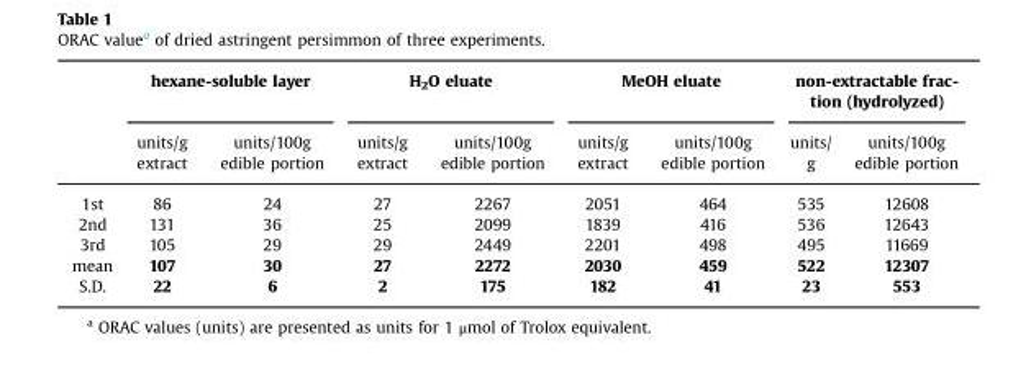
<table><thead><tr><td rowspan="2"></td><td colspan="2">hexane-soluble layer</td><td colspan="2">H<sub>2</sub>O eluate</td><td colspan="2">MeOH eluate</td><td colspan="2">non-extractable frac- tion (hydrolyzed)</td></tr><tr><td>units/g extract</td><td>units/100g edible portion</td><td>units/g extract</td><td>units/100g edible portion</td><td>units/g extract</td><td>units/100g edible portion</td><td>units/ g</td><td>units/100g edible portion</td></tr></thead><tbody><tr><td>1st</td><td>86</td><td>24</td><td>27</td><td>2267</td><td>2051</td><td>464</td><td>535</td><td>12608</td></tr><tr><td>2nd</td><td>131</td><td>36</td><td>25</td><td>2099</td><td>1839</td><td>416</td><td>536</td><td>12643</td></tr><tr><td>3rd</td><td>105</td><td>29</td><td>29</td><td>2449</td><td>2201</td><td>498</td><td>495</td><td>11669</td></tr><tr><td>mean</td><td>107</td><td>30</td><td>27</td><td>2272</td><td>2030</td><td>459</td><td>522</td><td>12307</td></tr><tr><td>S.D.</td><td>22</td><td>6</td><td>2</td><td>175</td><td>182</td><td>41</td><td>23</td><td>553</td></tr></tbody></table>